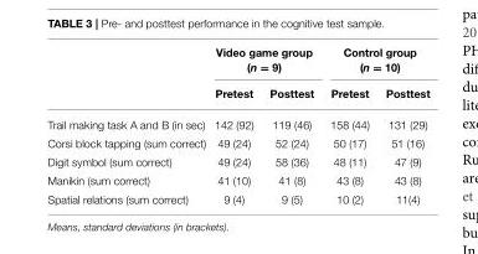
<table><thead><tr><td rowspan="2"></td><td colspan="2">Video game group (n = 9)</td><td colspan="2">Control group (n = 10)</td></tr><tr><td>Pretest</td><td>Posttest</td><td>Pretest</td><td>Posttest</td></tr></thead><tbody><tr><td>Trail making task A and B (in sec)</td><td>142 (92)</td><td>119 (46)</td><td>158 (44)</td><td>131 (29)</td></tr><tr><td>Corsi block tapping (sum correct)</td><td>49 (24)</td><td>52 (24)</td><td>50 (17)</td><td>51 (16)</td></tr><tr><td>Digit symbol (sum correct)</td><td>49 (24)</td><td>58 (36)</td><td>48 (11)</td><td>47 (9)</td></tr><tr><td>Manikin (sum correct)</td><td>41 (10)</td><td>41 (8)</td><td>43 (8)</td><td>43 (8)</td></tr><tr><td>Spatial relations (sum correct)</td><td>9 (4)</td><td>9 (5)</td><td>10 (2)</td><td>11(4)</td></tr></tbody></table>